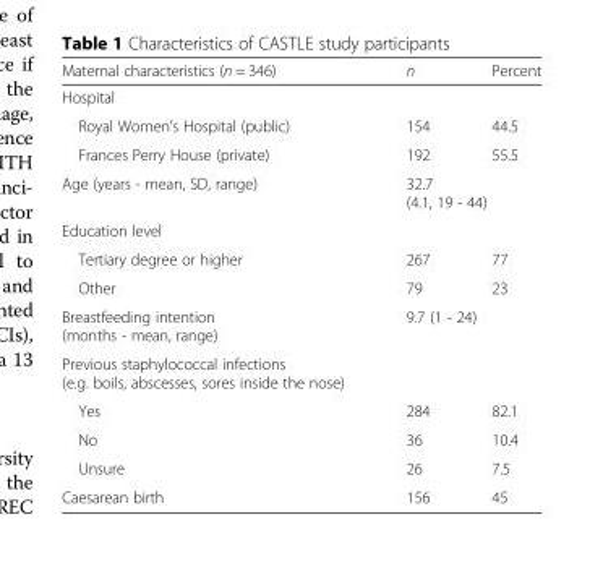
<table><thead><tr><td>Maternal characteristics (n = 346)</td><td>n</td><td>Percent</td></tr></thead><tbody><tr><td colspan="3">Hospital</td></tr><tr><td>Royal Women’s Hospital (public)</td><td>154</td><td>44.5</td></tr><tr><td>Frances Perry House (private)</td><td>192</td><td>55.5</td></tr><tr><td>Age (years - mean, SD, range)</td><td colspan="2">32.7 (4.1, 19 - 44)</td></tr><tr><td colspan="3">Education level</td></tr><tr><td>Tertiary degree or higher</td><td>267</td><td>77</td></tr><tr><td>Other</td><td>79</td><td>23</td></tr><tr><td>Breastfeeding intention (months - mean, range)</td><td colspan="2">9.7 (1 - 24)</td></tr><tr><td colspan="3">Previous staphylococcal infections (e.g. boils, abscesses, sores inside the nose)</td></tr><tr><td>Yes</td><td>284</td><td>82.1</td></tr><tr><td>No</td><td>36</td><td>10.4</td></tr><tr><td>Unsure</td><td>26</td><td>7.5</td></tr><tr><td>Caesarean birth</td><td>156</td><td>45</td></tr></tbody></table>